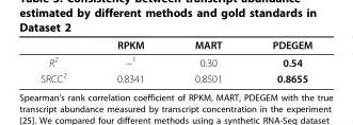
<table><thead><tr><td></td><td>RPKM</td><td>MART</td><td>PDEGEM</td></tr></thead><tbody><tr><td>R<sup>2</sup></td><td>−<sup>1</sup></td><td>0.30</td><td>0.54</td></tr><tr><td>SRCC<sup>2</sup></td><td>0.8341</td><td>0.8501</td><td>0.8655</td></tr></tbody></table>